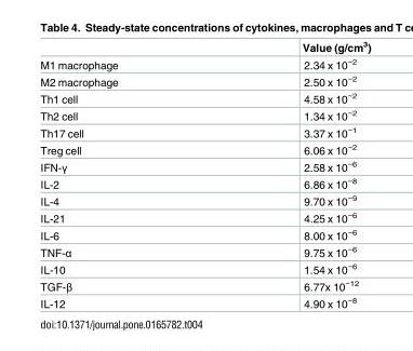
<table><thead><tr><td></td><td>Value (g/cm<sup>3</sup>)</td></tr></thead><tbody><tr><td>M1 macrophage</td><td>2.34 x 10<sup>−2</sup></td></tr><tr><td>M2 macrophage</td><td>2.50 x 10<sup>−2</sup></td></tr><tr><td>Th1 cell</td><td>4.58 x 10<sup>−2</sup></td></tr><tr><td>Th2 cell</td><td>1.34 x 10<sup>−2</sup></td></tr><tr><td>Th17 cell</td><td>3.37 x 10<sup>−1</sup></td></tr><tr><td>Treg cell</td><td>6.06 x 10<sup>−2</sup></td></tr><tr><td>IFN-γ</td><td>2.58 x 10<sup>−6</sup></td></tr><tr><td>IL-2</td><td>6.86 x 10<sup>−8</sup></td></tr><tr><td>IL-4</td><td>9.70 x 10<sup>−9</sup></td></tr><tr><td>IL-21</td><td>4.25 x 10<sup>−6</sup></td></tr><tr><td>IL-6</td><td>8.00 x 10<sup>−6</sup></td></tr><tr><td>TNF-α</td><td>9.75 x 10<sup>−6</sup></td></tr><tr><td>IL-10</td><td>1.54 x 10<sup>−6</sup></td></tr><tr><td>TGF-β</td><td>6.77x 10<sup>−12</sup></td></tr><tr><td>IL-12</td><td>4.90 x 10<sup>−8</sup></td></tr></tbody></table>